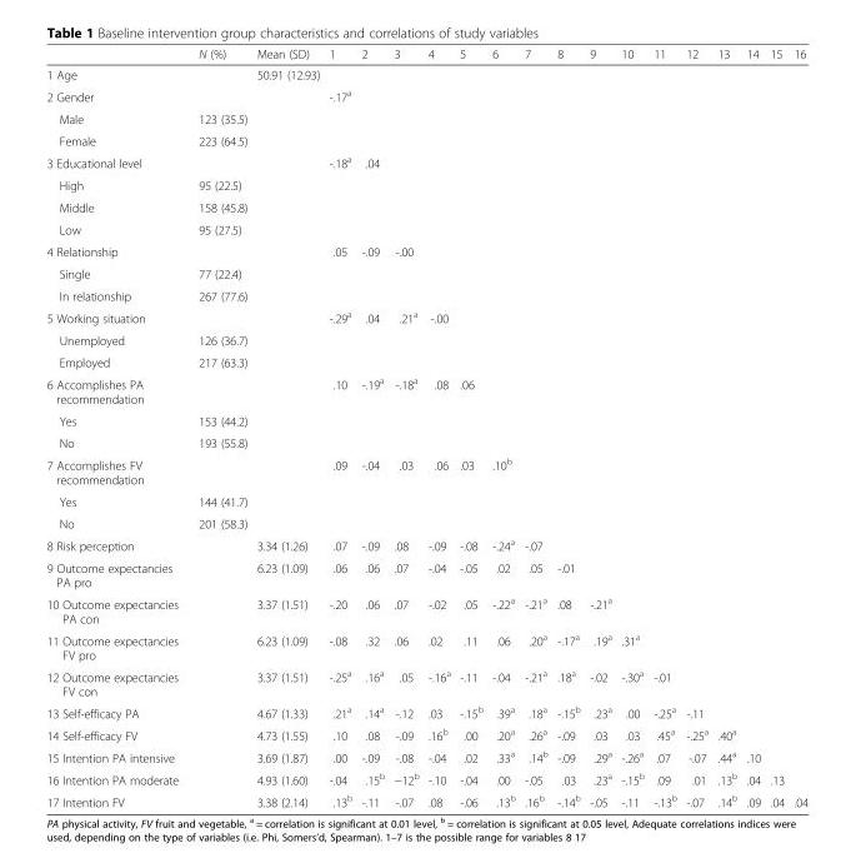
<table><thead><tr><td></td><td>N (%)</td><td>Mean (SD)</td><td>1</td><td>2</td><td>3</td><td>4</td><td>5</td><td>6</td><td>7</td><td>8</td><td>9</td><td>10</td><td>11</td><td>12</td><td>13</td><td>14</td><td>15</td><td>16</td></tr></thead><tbody><tr><td>1 Age</td><td></td><td>50.91 (12.93)</td><td></td><td></td><td></td><td></td><td></td><td></td><td></td><td></td><td></td><td></td><td></td><td></td><td></td><td></td><td></td><td></td></tr><tr><td>2 Gender</td><td></td><td></td><td>-.17<sup>a</sup></td><td></td><td></td><td></td><td></td><td></td><td></td><td></td><td></td><td></td><td></td><td></td><td></td><td></td><td></td><td></td></tr><tr><td>Male</td><td>123 (35.5)</td><td></td><td></td><td></td><td></td><td></td><td></td><td></td><td></td><td></td><td></td><td></td><td></td><td></td><td></td><td></td><td></td><td></td></tr><tr><td>Female</td><td>223 (64.5)</td><td></td><td></td><td></td><td></td><td></td><td></td><td></td><td></td><td></td><td></td><td></td><td></td><td></td><td></td><td></td><td></td><td></td></tr><tr><td>3 Educational level</td><td></td><td></td><td>-.18<sup>a</sup></td><td>.04</td><td></td><td></td><td></td><td></td><td></td><td></td><td></td><td></td><td></td><td></td><td></td><td></td><td></td><td></td></tr><tr><td>High</td><td>95 (22.5)</td><td></td><td></td><td></td><td></td><td></td><td></td><td></td><td></td><td></td><td></td><td></td><td></td><td></td><td></td><td></td><td></td><td></td></tr><tr><td>Middle</td><td>158 (45.8)</td><td></td><td></td><td></td><td></td><td></td><td></td><td></td><td></td><td></td><td></td><td></td><td></td><td></td><td></td><td></td><td></td><td></td></tr><tr><td>Low</td><td>95 (27.5)</td><td></td><td></td><td></td><td></td><td></td><td></td><td></td><td></td><td></td><td></td><td></td><td></td><td></td><td></td><td></td><td></td><td></td></tr><tr><td>4 Relationship</td><td></td><td></td><td>.05</td><td>-.09</td><td>-.00</td><td></td><td></td><td></td><td></td><td></td><td></td><td></td><td></td><td></td><td></td><td></td><td></td><td></td></tr><tr><td>Single</td><td>77 (22.4)</td><td></td><td></td><td></td><td></td><td></td><td></td><td></td><td></td><td></td><td></td><td></td><td></td><td></td><td></td><td></td><td></td><td></td></tr><tr><td>In relationship</td><td>267 (77.6)</td><td></td><td></td><td></td><td></td><td></td><td></td><td></td><td></td><td></td><td></td><td></td><td></td><td></td><td></td><td></td><td></td><td></td></tr><tr><td>5 Working situation</td><td></td><td></td><td>-.29<sup>a</sup></td><td>.04</td><td>.21<sup>a</sup></td><td>-.00</td><td></td><td></td><td></td><td></td><td></td><td></td><td></td><td></td><td></td><td></td><td></td><td></td></tr><tr><td>Unemployed</td><td>126 (36.7)</td><td></td><td></td><td></td><td></td><td></td><td></td><td></td><td></td><td></td><td></td><td></td><td></td><td></td><td></td><td></td><td></td><td></td></tr><tr><td>Employed</td><td>217 (63.3)</td><td></td><td></td><td></td><td></td><td></td><td></td><td></td><td></td><td></td><td></td><td></td><td></td><td></td><td></td><td></td><td></td><td></td></tr><tr><td>6 Accomplishes PA recommendation</td><td></td><td></td><td>.10</td><td>-.19<sup>a</sup></td><td>-.18<sup>a</sup></td><td>.08</td><td>.06</td><td></td><td></td><td></td><td></td><td></td><td></td><td></td><td></td><td></td><td></td><td></td></tr><tr><td>Yes</td><td>153 (44.2)</td><td></td><td></td><td></td><td></td><td></td><td></td><td></td><td></td><td></td><td></td><td></td><td></td><td></td><td></td><td></td><td></td><td></td></tr><tr><td>No</td><td>193 (55.8)</td><td></td><td></td><td></td><td></td><td></td><td></td><td></td><td></td><td></td><td></td><td></td><td></td><td></td><td></td><td></td><td></td><td></td></tr><tr><td>7 Accomplishes FV recommendation</td><td></td><td></td><td>.09</td><td>-.04</td><td>.03</td><td>.06</td><td>.03</td><td>.10<sup>b</sup></td><td></td><td></td><td></td><td></td><td></td><td></td><td></td><td></td><td></td><td></td></tr><tr><td>Yes</td><td>144 (41.7)</td><td></td><td></td><td></td><td></td><td></td><td></td><td></td><td></td><td></td><td></td><td></td><td></td><td></td><td></td><td></td><td></td><td></td></tr><tr><td>No</td><td>201 (58.3)</td><td></td><td></td><td></td><td></td><td></td><td></td><td></td><td></td><td></td><td></td><td></td><td></td><td></td><td></td><td></td><td></td><td></td></tr><tr><td>8 Risk perception</td><td></td><td>3.34 (1.26)</td><td>.07</td><td>-.09</td><td>.08</td><td>-.09</td><td>-.08</td><td>-.24<sup>a</sup></td><td>-.07</td><td></td><td></td><td></td><td></td><td></td><td></td><td></td><td></td><td></td></tr><tr><td>9 Outcome expectancies PA pro</td><td></td><td>6.23 (1.09)</td><td>.06</td><td>.06</td><td>.07</td><td>-.04</td><td>-.05</td><td>.02</td><td>.05</td><td>-.01</td><td></td><td></td><td></td><td></td><td></td><td></td><td></td><td></td></tr><tr><td>10 Outcome expectancies PA con</td><td></td><td>3.37 (1.51)</td><td>-.20</td><td>.06</td><td>.07</td><td>-.02</td><td>.05</td><td>-.22<sup>a</sup></td><td>-.21<sup>a</sup></td><td>.08</td><td>-.21<sup>a</sup></td><td></td><td></td><td></td><td></td><td></td><td></td><td></td></tr><tr><td>11 Outcome expectancies FV pro</td><td></td><td>6.23 (1.09)</td><td>-.08</td><td>.32</td><td>.06</td><td>.02</td><td>.11</td><td>.06</td><td>.20<sup>a</sup></td><td>-.17<sup>a</sup></td><td>.19<sup>a</sup></td><td>.31<sup>a</sup></td><td></td><td></td><td></td><td></td><td></td><td></td></tr><tr><td>12 Outcome expectancies FV con</td><td></td><td>3.37 (1.51)</td><td>-.25<sup>a</sup></td><td>.16<sup>a</sup></td><td>.05</td><td>-.16<sup>a</sup></td><td>-.11</td><td>-.04</td><td>-.21<sup>a</sup></td><td>.18<sup>a</sup></td><td>-.02</td><td>-.30<sup>a</sup></td><td>-.01</td><td></td><td></td><td></td><td></td><td></td></tr><tr><td>13 Self-efficacy PA</td><td></td><td>4.67 (1.33)</td><td>.21<sup>a</sup></td><td>.14<sup>a</sup></td><td>-.12</td><td>.03</td><td>-.15<sup>b</sup></td><td>.39<sup>a</sup></td><td>.18<sup>a</sup></td><td>-.15<sup>b</sup></td><td>.23<sup>a</sup></td><td>.00</td><td>-.25<sup>a</sup></td><td>-.11</td><td></td><td></td><td></td><td></td></tr><tr><td>14 Self-efficacy FV</td><td></td><td>4.73 (1.55)</td><td>.10</td><td>.08</td><td>-.09</td><td>.16<sup>b</sup></td><td>.00</td><td>.20<sup>a</sup></td><td>.26<sup>a</sup></td><td>-.09</td><td>.03</td><td>.03</td><td>.45<sup>a</sup></td><td>-.25<sup>a</sup></td><td>.40<sup>a</sup></td><td></td><td></td><td></td></tr><tr><td>15 Intention PA intensive</td><td></td><td>3.69 (1.87)</td><td>.00</td><td>-.09</td><td>-.08</td><td>-.04</td><td>.02</td><td>.33<sup>a</sup></td><td>.14<sup>b</sup></td><td>-.09</td><td>.29<sup>a</sup></td><td>-.26<sup>a</sup></td><td>.07</td><td>-.07</td><td>.44<sup>a</sup></td><td>.10</td><td></td><td></td></tr><tr><td>16 Intention PA moderate</td><td></td><td>4.93 (1.60)</td><td>-.04</td><td>.15<sup>b</sup></td><td>−12<sup>b</sup></td><td>-.10</td><td>-.04</td><td>.00</td><td>-.05</td><td>.03</td><td>.23<sup>a</sup></td><td>-.15<sup>b</sup></td><td>.09</td><td>.01</td><td>.13<sup>b</sup></td><td>.04</td><td>.13</td><td></td></tr><tr><td>17 Intention FV</td><td></td><td>3.38 (2.14)</td><td>.13<sup>b</sup></td><td>-.11</td><td>-.07</td><td>.08</td><td>-.06</td><td>.13<sup>b</sup></td><td>.16<sup>b</sup></td><td>-.14<sup>b</sup></td><td>-.05</td><td>-.11</td><td>-.13<sup>b</sup></td><td>-.07</td><td>.14<sup>b</sup></td><td>.09</td><td>.04</td><td>.04</td></tr></tbody></table>